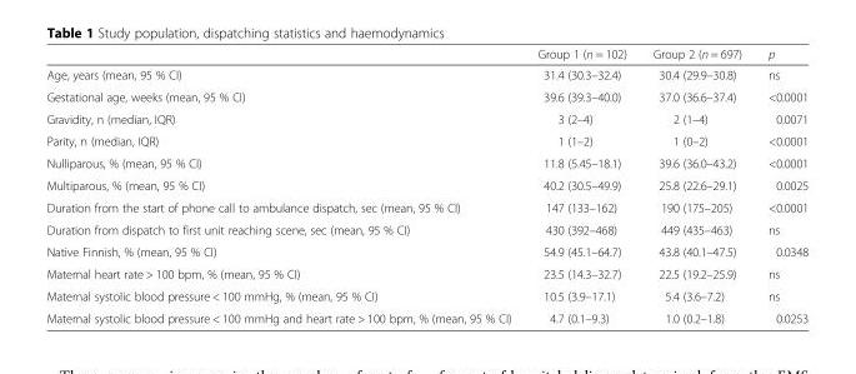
<table><thead><tr><td></td><td>Group 1 (n = 102)</td><td>Group 2 (n = 697)</td><td>p</td></tr></thead><tbody><tr><td>Age, years (mean, 95 % CI)</td><td>31.4 (30.3–32.4)</td><td>30.4 (29.9–30.8)</td><td>ns</td></tr><tr><td>Gestational age, weeks (mean, 95 % CI)</td><td>39.6 (39.3–40.0)</td><td>37.0 (36.6–37.4)</td><td>&lt;0.0001</td></tr><tr><td>Gravidity, n (median, IQR)</td><td>3 (2–4)</td><td>2 (1–4)</td><td>0.0071</td></tr><tr><td>Parity, n (median, IQR)</td><td>1 (1–2)</td><td>1 (0–2)</td><td>&lt;0.0001</td></tr><tr><td>Nulliparous, % (mean, 95 % CI)</td><td>11.8 (5.45–18.1)</td><td>39.6 (36.0–43.2)</td><td>&lt;0.0001</td></tr><tr><td>Multiparous, % (mean, 95 % CI)</td><td>40.2 (30.5–49.9)</td><td>25.8 (22.6–29.1)</td><td>0.0025</td></tr><tr><td>Duration from the start of phone call to ambulance dispatch, sec (mean, 95 % CI)</td><td>147 (133–162)</td><td>190 (175–205)</td><td>&lt;0.0001</td></tr><tr><td>Duration from dispatch to first unit reaching scene, sec (mean, 95 % CI)</td><td>430 (392–468)</td><td>449 (435–463)</td><td>ns</td></tr><tr><td>Native Finnish, % (mean, 95 % CI)</td><td>54.9 (45.1–64.7)</td><td>43.8 (40.1–47.5)</td><td>0.0348</td></tr><tr><td>Maternal heart rate &gt; 100 bpm, % (mean, 95 % CI)</td><td>23.5 (14.3–32.7)</td><td>22.5 (19.2–25.9)</td><td>ns</td></tr><tr><td>Maternal systolic blood pressure &lt; 100 mmHg, % (mean, 95 % CI)</td><td>10.5 (3.9–17.1)</td><td>5.4 (3.6–7.2)</td><td>ns</td></tr><tr><td>Maternal systolic blood pressure &lt; 100 mmHg and heart rate &gt; 100 bpm, % (mean, 95 % CI)</td><td>4.7 (0.1–9.3)</td><td>1.0 (0.2–1.8)</td><td>0.0253</td></tr></tbody></table>